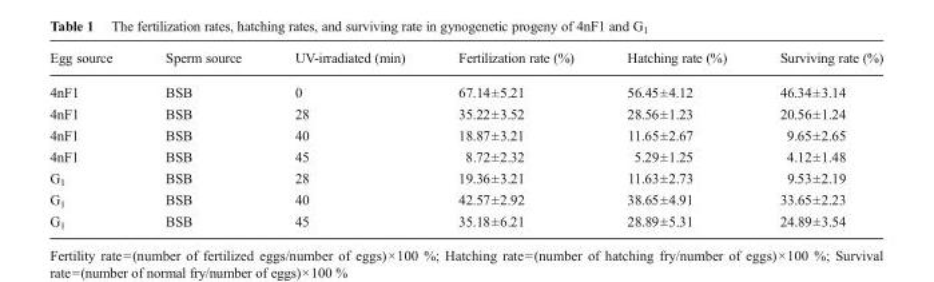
<table><thead><tr><td>Egg source</td><td>Sperm source</td><td>UV-irradiated (min)</td><td>Fertilization rate (%)</td><td>Hatching rate (%)</td><td>Surviving rate (%)</td></tr></thead><tbody><tr><td>4nF1</td><td>BSB</td><td>0</td><td>67.14±5.21</td><td>56.45±4.12</td><td>46.34±3.14</td></tr><tr><td>4nF1</td><td>BSB</td><td>28</td><td>35.22±3.52</td><td>28.56±1.23</td><td>20.56±1.24</td></tr><tr><td>4nF1</td><td>BSB</td><td>40</td><td>18.87±3.21</td><td>11.65±2.67</td><td>9.65±2.65</td></tr><tr><td>4nF1</td><td>BSB</td><td>45</td><td>8.72±2.32</td><td>5.29±1.25</td><td>4.12±1.48</td></tr><tr><td>G<sub>1</sub></td><td>BSB</td><td>28</td><td>19.36±3.21</td><td>11.63±2.73</td><td>9.53±2.19</td></tr><tr><td>G<sub>1</sub></td><td>BSB</td><td>40</td><td>42.57±2.92</td><td>38.65±4.91</td><td>33.65±2.23</td></tr><tr><td>G<sub>1</sub></td><td>BSB</td><td>45</td><td>35.18±6.21</td><td>28.89±5.31</td><td>24.89±3.54</td></tr></tbody></table>